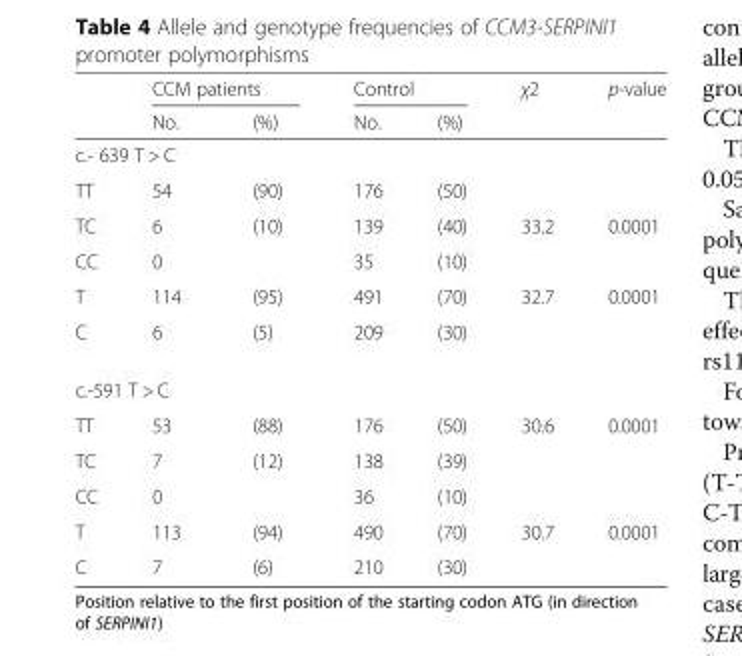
<table><thead><tr><td rowspan="2"></td><td colspan="2">CCM patients</td><td colspan="2">Control</td><td rowspan="2">χ2</td><td rowspan="2">p-value</td></tr><tr><td>No.</td><td>(%)</td><td>No.</td><td>(%)</td></tr></thead><tbody><tr><td colspan="7">c.- 639 T &gt; C</td></tr><tr><td>TT</td><td>54</td><td>(90)</td><td>176</td><td>(50)</td><td></td><td></td></tr><tr><td>TC</td><td>6</td><td>(10)</td><td>139</td><td>(40)</td><td>33.2</td><td>0.0001</td></tr><tr><td>CC</td><td>0</td><td></td><td>35</td><td>(10)</td><td></td><td></td></tr><tr><td>T</td><td>114</td><td>(95)</td><td>491</td><td>(70)</td><td>32.7</td><td>0.0001</td></tr><tr><td>C</td><td>6</td><td>(5)</td><td>209</td><td>(30)</td><td></td><td></td></tr><tr><td colspan="7">c.-591 T &gt; C</td></tr><tr><td>TT</td><td>53</td><td>(88)</td><td>176</td><td>(50)</td><td rowspan="3">30.6</td><td rowspan="3">0.0001</td></tr><tr><td>TC</td><td>7</td><td>(12)</td><td>138</td><td>(39)</td></tr><tr><td>CC</td><td>0</td><td></td><td>36</td><td>(10)</td></tr><tr><td>T</td><td>113</td><td>(94)</td><td>490</td><td>(70)</td><td rowspan="2">30.7</td><td rowspan="2">0.0001</td></tr><tr><td>C</td><td>7</td><td>(6)</td><td>210</td><td>(30)</td></tr></tbody></table>